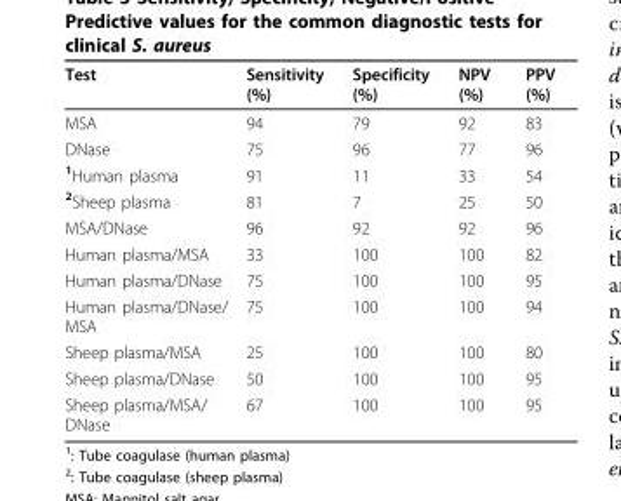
<table><thead><tr><td>Test</td><td>Sensitivity (%)</td><td>Specificity (%)</td><td>NPV (%)</td><td>PPV (%)</td></tr></thead><tbody><tr><td>MSA</td><td>94</td><td>79</td><td>92</td><td>83</td></tr><tr><td>DNase</td><td>75</td><td>96</td><td>77</td><td>96</td></tr><tr><td><sup>1</sup>Human plasma</td><td>91</td><td>11</td><td>33</td><td>54</td></tr><tr><td><sup>2</sup>Sheep plasma</td><td>81</td><td>7</td><td>25</td><td>50</td></tr><tr><td>MSA/DNase</td><td>96</td><td>92</td><td>92</td><td>96</td></tr><tr><td>Human plasma/MSA</td><td>33</td><td>100</td><td>100</td><td>82</td></tr><tr><td>Human plasma/DNase</td><td>75</td><td>100</td><td>100</td><td>95</td></tr><tr><td>Human plasma/DNase/ MSA</td><td>75</td><td>100</td><td>100</td><td>94</td></tr><tr><td>Sheep plasma/MSA</td><td>25</td><td>100</td><td>100</td><td>80</td></tr><tr><td>Sheep plasma/DNase</td><td>50</td><td>100</td><td>100</td><td>95</td></tr><tr><td>Sheep plasma/MSA/ DNase</td><td>67</td><td>100</td><td>100</td><td>95</td></tr></tbody></table>